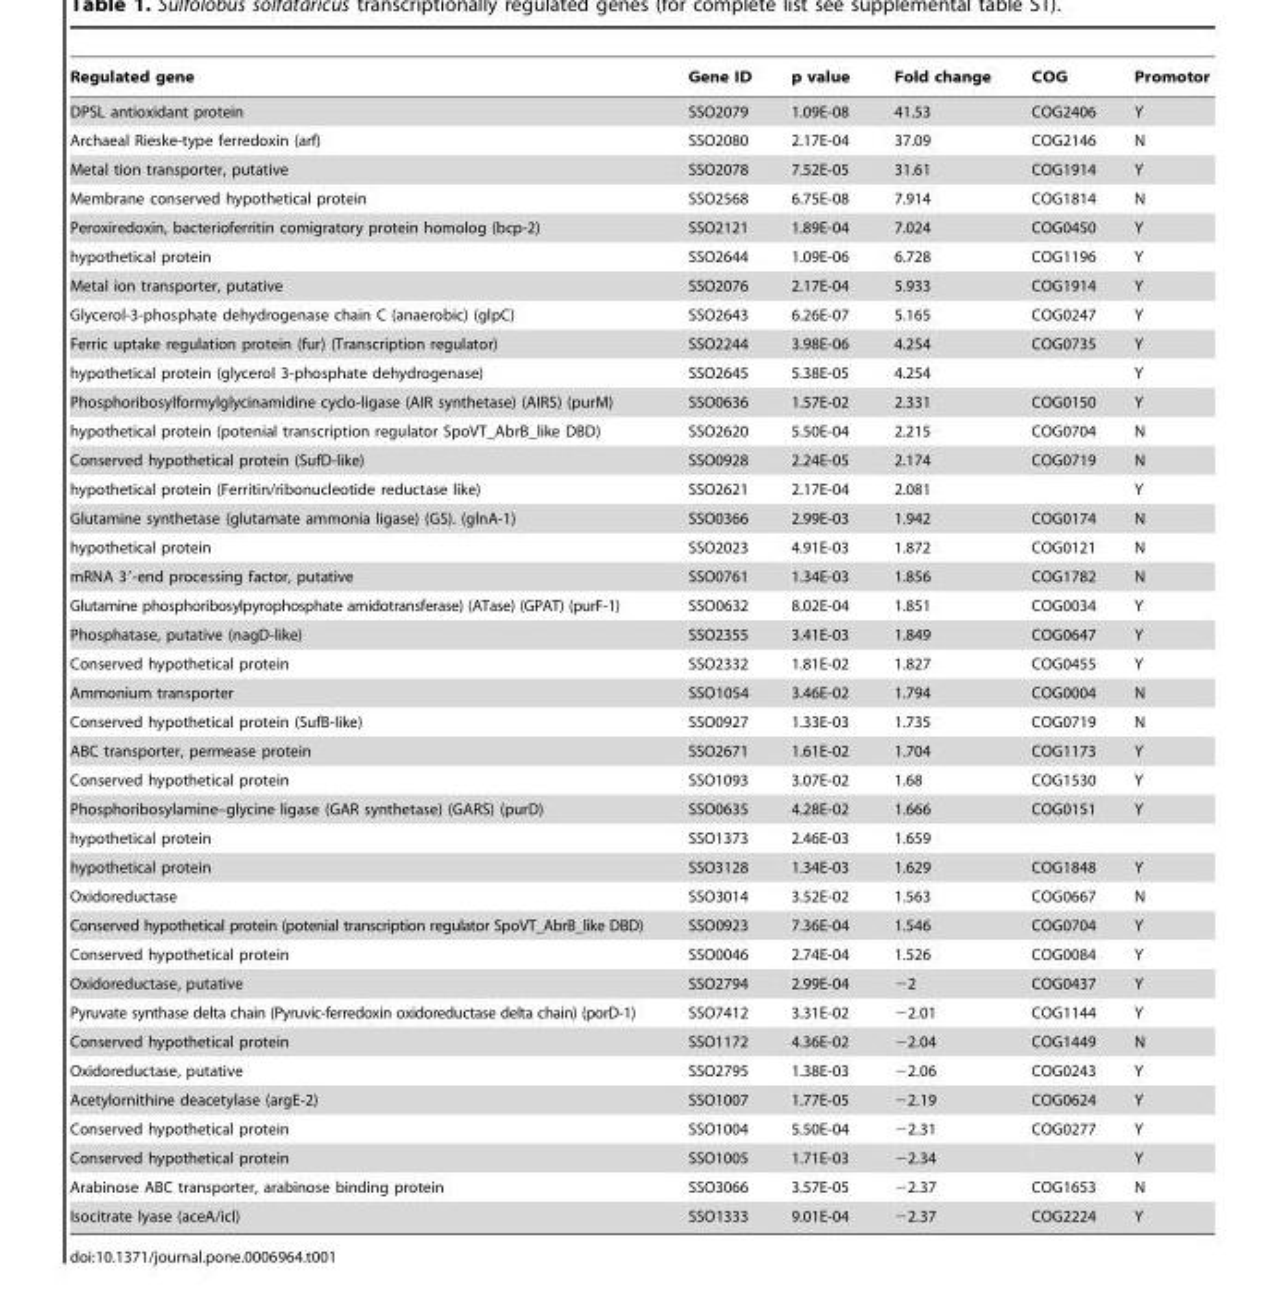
<table><thead><tr><td>Regulated gene</td><td>Gene ID</td><td>p value</td><td>Fold change</td><td>COG</td><td>Promotor</td></tr></thead><tbody><tr><td>DPSL antioxidant protein</td><td>SSO2079</td><td>1.09E-08</td><td>41.53</td><td>COG2406</td><td>Y</td></tr><tr><td>Archaeal Rieske-type ferredoxin (arf)</td><td>SSO2080</td><td>2.17E-04</td><td>37.09</td><td>COG2146</td><td>N</td></tr><tr><td>Metal tion transporter, putative</td><td>SSO2078</td><td>7.52E-05</td><td>31.61</td><td>COG1914</td><td>Y</td></tr><tr><td>Membrane conserved hypothetical protein</td><td>SSO2568</td><td>6.75E-08</td><td>7.914</td><td>COG1814</td><td>N</td></tr><tr><td>Peroxiredoxin, bacterioferritin comigratory protein homolog (bcp-2)</td><td>SSO2121</td><td>1.89E-04</td><td>7.024</td><td>COG0450</td><td>Y</td></tr><tr><td>hypothetical protein</td><td>SSO2644</td><td>1.09E-06</td><td>6.728</td><td>COG1196</td><td>Y</td></tr><tr><td>Metal ion transporter, putative</td><td>SSO2076</td><td>2.17E-04</td><td>5.933</td><td>COG1914</td><td>Y</td></tr><tr><td>Glycerol-3-phosphate dehydrogenase chain C (anaerobic) (glpC)</td><td>SSO2643</td><td>6.26E-07</td><td>5.165</td><td>COG0247</td><td>Y</td></tr><tr><td>Ferric uptake regulation protein (fur) (Transcription regulator)</td><td>SSO2244</td><td>3.98E-06</td><td>4.254</td><td>COG0735</td><td>Y</td></tr><tr><td>hypothetical protein (glycerol 3-phosphate dehydrogenase)</td><td>SSO2645</td><td>5.38E-05</td><td>4.254</td><td></td><td>Y</td></tr><tr><td>Phosphoribosylformylglycinamidine cyclo-ligase (AIR synthetase) (AIRS) (purM)</td><td>SSO0636</td><td>1.57E-02</td><td>2.331</td><td>COG0150</td><td>Y</td></tr><tr><td>hypothetical protein (potenial transcription regulator SpoVT_AbrB_like DBD)</td><td>SSO2620</td><td>5.50E-04</td><td>2.215</td><td>COG0704</td><td>N</td></tr><tr><td>Conserved hypothetical protein (SufD-like)</td><td>SSO0928</td><td>2.24E-05</td><td>2.174</td><td>COG0719</td><td>N</td></tr><tr><td>hypothetical protein (Ferritin/ribonucleotide reductase like)</td><td>SSO2621</td><td>2.17E-04</td><td>2.081</td><td></td><td>Y</td></tr><tr><td>Glutamine synthetase (glutamate ammonia ligase) (GS). (glnA-1)</td><td>SSO0366</td><td>2.99E-03</td><td>1.942</td><td>COG0174</td><td>N</td></tr><tr><td>hypothetical protein</td><td>SSO2023</td><td>4.91E-03</td><td>1.872</td><td>COG0121</td><td>N</td></tr><tr><td>mRNA 3′-end processing factor, putative</td><td>SSO0761</td><td>1.34E-03</td><td>1.856</td><td>COG1782</td><td>N</td></tr><tr><td>Glutamine phosphoribosylpyrophosphate amidotransferase) (ATase) (GPAT) (purF-1)</td><td>SSO0632</td><td>8.02E-04</td><td>1.851</td><td>COG0034</td><td>Y</td></tr><tr><td>Phosphatase, putative (nagD-like)</td><td>SSO2355</td><td>3.41E-03</td><td>1.849</td><td>COG0647</td><td>Y</td></tr><tr><td>Conserved hypothetical protein</td><td>SSO2332</td><td>1.81E-02</td><td>1.827</td><td>COG0455</td><td>Y</td></tr><tr><td>Ammonium transporter</td><td>SSO1054</td><td>3.46E-02</td><td>1.794</td><td>COG0004</td><td>N</td></tr><tr><td>Conserved hypothetical protein (SufB-like)</td><td>SSO0927</td><td>1.33E-03</td><td>1.735</td><td>COG0719</td><td>N</td></tr><tr><td>ABC transporter, permease protein</td><td>SSO2671</td><td>1.61E-02</td><td>1.704</td><td>COG1173</td><td>Y</td></tr><tr><td>Conserved hypothetical protein</td><td>SSO1093</td><td>3.07E-02</td><td>1.68</td><td>COG1530</td><td>Y</td></tr><tr><td>Phosphoribosylamine–glycine ligase (GAR synthetase) (GARS) (purD)</td><td>SSO0635</td><td>4.28E-02</td><td>1.666</td><td>COG0151</td><td>Y</td></tr><tr><td>hypothetical protein</td><td>SSO1373</td><td>2.46E-03</td><td>1.659</td><td></td><td></td></tr><tr><td>hypothetical protein</td><td>SSO3128</td><td>1.34E-03</td><td>1.629</td><td>COG1848</td><td>Y</td></tr><tr><td>Oxidoreductase</td><td>SSO3014</td><td>3.52E-02</td><td>1.563</td><td>COG0667</td><td>N</td></tr><tr><td>Conserved hypothetical protein (potenial transcription regulator SpoVT_AbrB_like DBD)</td><td>SSO0923</td><td>7.36E-04</td><td>1.546</td><td>COG0704</td><td>Y</td></tr><tr><td>Conserved hypothetical protein</td><td>SSO0046</td><td>2.74E-04</td><td>1.526</td><td>COG0084</td><td>Y</td></tr><tr><td>Oxidoreductase, putative</td><td>SSO2794</td><td>2.99E-04</td><td>−2</td><td>COG0437</td><td>Y</td></tr><tr><td>Pyruvate synthase delta chain (Pyruvic-ferredoxin oxidoreductase delta chain) (porD-1)</td><td>SSO7412</td><td>3.31E-02</td><td>−2.01</td><td>COG1144</td><td>Y</td></tr><tr><td>Conserved hypothetical protein</td><td>SSO1172</td><td>4.36E-02</td><td>−2.04</td><td>COG1449</td><td>N</td></tr><tr><td>Oxidoreductase, putative</td><td>SSO2795</td><td>1.38E-03</td><td>−2.06</td><td>COG0243</td><td>Y</td></tr><tr><td>Acetylornithine deacetylase (argE-2)</td><td>SSO1007</td><td>1.77E-05</td><td>−2.19</td><td>COG0624</td><td>Y</td></tr><tr><td>Conserved hypothetical protein</td><td>SSO1004</td><td>5.50E-04</td><td>−2.31</td><td>COG0277</td><td>Y</td></tr><tr><td>Conserved hypothetical protein</td><td>SSO1005</td><td>1.71E-03</td><td>−2.34</td><td></td><td>Y</td></tr><tr><td>Arabinose ABC transporter, arabinose binding protein</td><td>SSO3066</td><td>3.57E-05</td><td>−2.37</td><td>COG1653</td><td>N</td></tr><tr><td>Isocitrate lyase (aceA/icl)</td><td>SSO1333</td><td>9.01E-04</td><td>−2.37</td><td>COG2224</td><td>Y</td></tr></tbody></table>